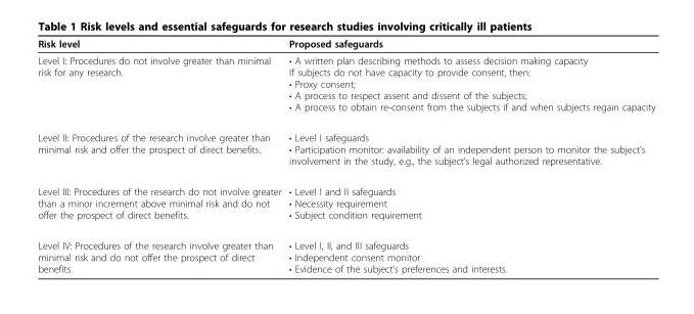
<table><thead><tr><td>Risk level</td><td>Proposed safeguards</td></tr></thead><tbody><tr><td>Level I: Procedures do not involve greater than minimal risk for any research.</td><td>• A written plan describing methods to assess decision making capacity If subjects do not have capacity to provide consent, then: • Proxy consent; • A process to respect assent and dissent of the subjects; • A process to obtain re-consent from the subjects if and when subjects regain capacity</td></tr><tr><td>Level II: Procedures of the research involve greater than minimal risk and offer the prospect of direct benefits.</td><td>• Level I safeguards • Participation monitor: availability of an independent person to monitor the subject’s involvement in the study, e.g., the subject’s legal authorized representative.</td></tr><tr><td>Level III: Procedures of the research do not involve greater than a minor increment above minimal risk and do not offer the prospect of direct benefits.</td><td>• Level I and II safeguards • Necessity requirement • Subject condition requirement</td></tr><tr><td>Level IV: Procedures of the research involve greater than minimal risk and do not offer the prospect of direct benefits.</td><td>• Level I, II, and III safeguards • Independent consent monitor • Evidence of the subject’s preferences and interests.</td></tr></tbody></table>